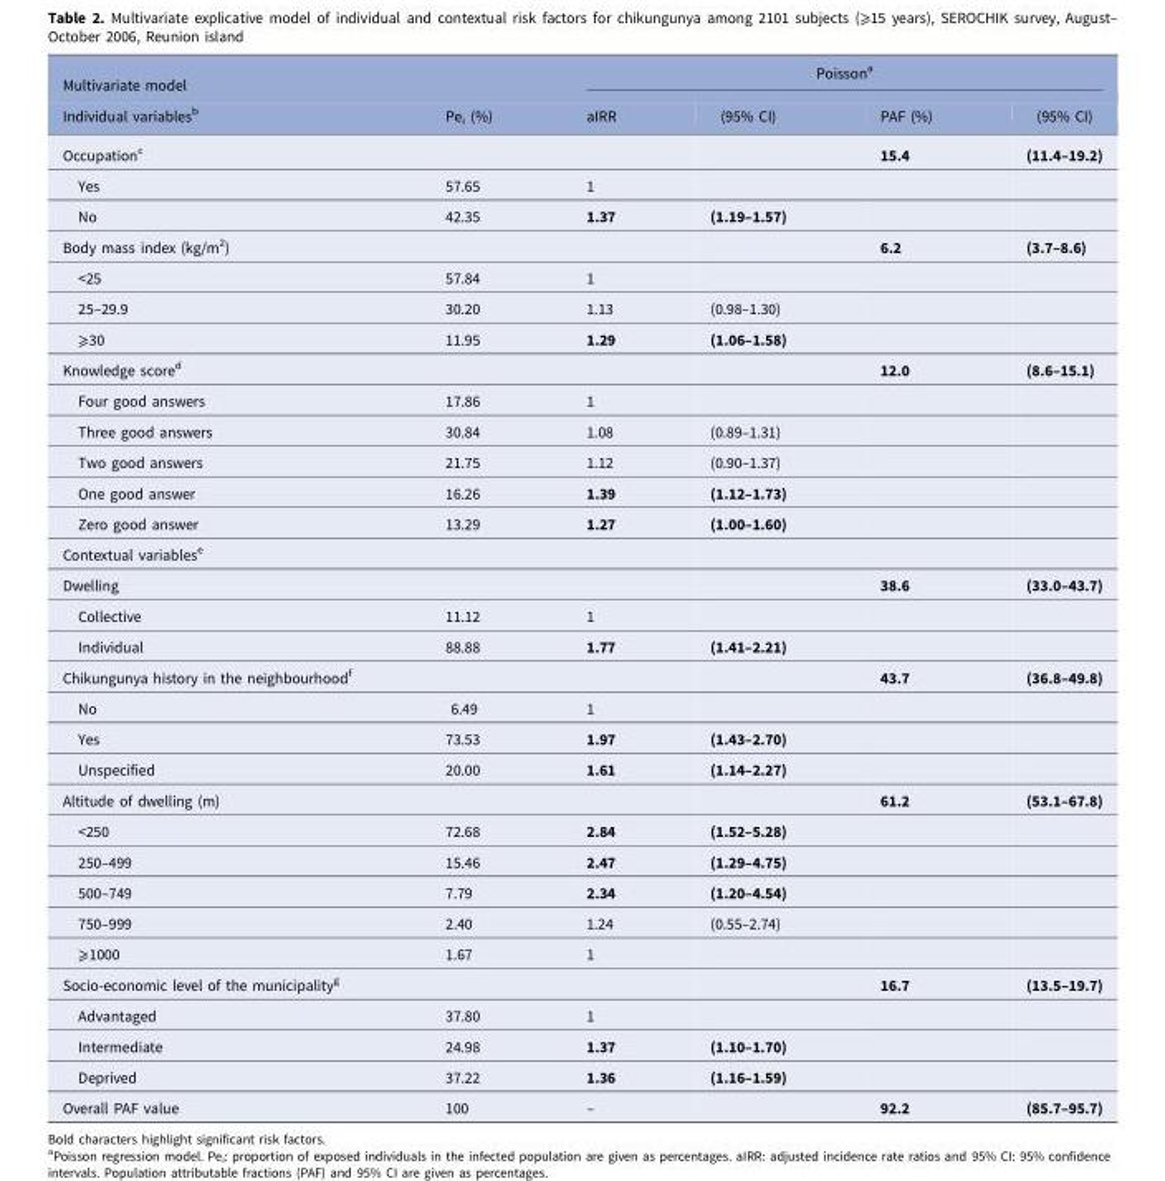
<table><thead><tr><td rowspan="2">Multivariate model Individual variables<sup>b</sup></td><td rowspan="2">Pe<sub>i</sub> (%)</td><td colspan="4">Poisson<sup>a</sup></td></tr><tr><td>aIRR</td><td>(95% CI)</td><td>PAF (%)</td><td>(95% CI)</td></tr></thead><tbody><tr><td>Occupation<sup>c</sup></td><td></td><td></td><td></td><td>15.4</td><td>(11.4–19.2)</td></tr><tr><td>Yes</td><td>57.65</td><td>1</td><td></td><td></td><td></td></tr><tr><td>No</td><td>42.35</td><td>1.37</td><td>(1.19–1.57)</td><td></td><td></td></tr><tr><td>Body mass index (kg/m<sup>2</sup>)</td><td></td><td></td><td></td><td>6.2</td><td>(3.7–8.6)</td></tr><tr><td>&lt;25</td><td>57.84</td><td>1</td><td></td><td></td><td></td></tr><tr><td>25–29.9</td><td>30.20</td><td>1.13</td><td>(0.98–1.30)</td><td></td><td></td></tr><tr><td>⩾30</td><td>11.95</td><td>1.29</td><td>(1.06–1.58)</td><td></td><td></td></tr><tr><td>Knowledge score<sup>d</sup></td><td></td><td></td><td></td><td>12.0</td><td>(8.6–15.1)</td></tr><tr><td>Four good answers</td><td>17.86</td><td>1</td><td></td><td></td><td></td></tr><tr><td>Three good answers</td><td>30.84</td><td>1.08</td><td>(0.89–1.31)</td><td></td><td></td></tr><tr><td>Two good answers</td><td>21.75</td><td>1.12</td><td>(0.90–1.37)</td><td></td><td></td></tr><tr><td>One good answer</td><td>16.26</td><td>1.39</td><td>(1.12–1.73)</td><td></td><td></td></tr><tr><td>Zero good answer</td><td>13.29</td><td>1.27</td><td>(1.00–1.60)</td><td></td><td></td></tr><tr><td colspan="6">Contextual variables<sup>e</sup></td></tr><tr><td>Dwelling</td><td></td><td></td><td></td><td>38.6</td><td>(33.0–43.7)</td></tr><tr><td>Collective</td><td>11.12</td><td>1</td><td></td><td></td><td></td></tr><tr><td>Individual</td><td>88.88</td><td>1.77</td><td>(1.41–2.21)</td><td></td><td></td></tr><tr><td>Chikungunya history in the neighbourhood<sup>f</sup></td><td></td><td></td><td></td><td>43.7</td><td>(36.8–49.8)</td></tr><tr><td>No</td><td>6.49</td><td>1</td><td></td><td></td><td></td></tr><tr><td>Yes</td><td>73.53</td><td>1.97</td><td>(1.43–2.70)</td><td></td><td></td></tr><tr><td>Unspecified</td><td>20.00</td><td>1.61</td><td>(1.14–2.27)</td><td></td><td></td></tr><tr><td>Altitude of dwelling (m)</td><td></td><td></td><td></td><td>61.2</td><td>(53.1–67.8)</td></tr><tr><td>&lt;250</td><td>72.68</td><td>2.84</td><td>(1.52–5.28)</td><td></td><td></td></tr><tr><td>250–499</td><td>15.46</td><td>2.47</td><td>(1.29–4.75)</td><td></td><td></td></tr><tr><td>500–749</td><td>7.79</td><td>2.34</td><td>(1.20–4.54)</td><td></td><td></td></tr><tr><td>750–999</td><td>2.40</td><td>1.24</td><td>(0.55–2.74)</td><td></td><td></td></tr><tr><td>⩾1000</td><td>1.67</td><td>1</td><td></td><td></td><td></td></tr><tr><td>Socio-economic level of the municipality<sup>g</sup></td><td></td><td></td><td></td><td>16.7</td><td>(13.5–19.7)</td></tr><tr><td>Advantaged</td><td>37.80</td><td>1</td><td></td><td></td><td></td></tr><tr><td>Intermediate</td><td>24.98</td><td>1.37</td><td>(1.10–1.70)</td><td></td><td></td></tr><tr><td>Deprived</td><td>37.22</td><td>1.36</td><td>(1.16–1.59)</td><td></td><td></td></tr><tr><td>Overall PAF value</td><td>100</td><td>–</td><td></td><td>92.2</td><td>(85.7–95.7)</td></tr></tbody></table>